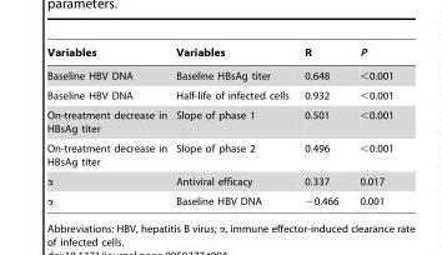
<table><thead><tr><td>Variables</td><td>Variables</td><td>R</td><td>P</td></tr></thead><tbody><tr><td>Baseline HBV DNA</td><td>Baseline HBsAg titer</td><td>0.648</td><td>&lt;0.001</td></tr><tr><td>Baseline HBV DNA</td><td>Half-life of infected cells</td><td>0.932</td><td>&lt;0.001</td></tr><tr><td>On-treatment decrease in HBsAg titer</td><td>Slope of phase 1</td><td>0.501</td><td>&lt;0.001</td></tr><tr><td>On-treatment decrease in HBsAg titer</td><td>Slope of phase 2</td><td>0.496</td><td>&lt;0.001</td></tr><tr><td>α</td><td>Antiviral efficacy</td><td>0.337</td><td>0.017</td></tr><tr><td>α</td><td>Baseline HBV DNA</td><td>−0.466</td><td>0.001</td></tr></tbody></table>